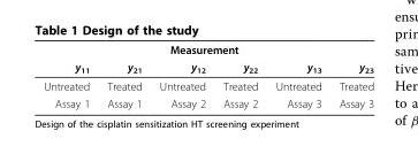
<table><thead><tr><td colspan="6">Measurement</td></tr><tr><td>y<sub>11</sub></td><td>y<sub>21</sub></td><td>y<sub>12</sub></td><td>y<sub>22</sub></td><td>y<sub>13</sub></td><td>y<sub>23</sub></td></tr></thead><tbody><tr><td>Untreated</td><td>Treated</td><td>Untreated</td><td>Treated</td><td>Untreated</td><td>Treated</td></tr><tr><td>Assay 1</td><td>Assay 1</td><td>Assay 2</td><td>Assay 2</td><td>Assay 3</td><td>Assay 3</td></tr></tbody></table>